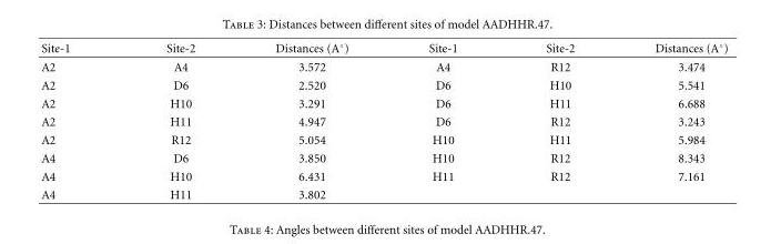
<table><thead><tr><td>Site-1</td><td>Site-2</td><td>Distances (A◦)</td><td>Site-1</td><td>Site-2</td><td>Distances (A◦)</td></tr></thead><tbody><tr><td>A2</td><td>A4</td><td>3.572</td><td>A4</td><td>R12</td><td>3.474</td></tr><tr><td>A2</td><td>D6</td><td>2.520</td><td>D6</td><td>H10</td><td>5.541</td></tr><tr><td>A2</td><td>H10</td><td>3.291</td><td>D6</td><td>H11</td><td>6.688</td></tr><tr><td>A2</td><td>H11</td><td>4.947</td><td>D6</td><td>R12</td><td>3.243</td></tr><tr><td>A2</td><td>R12</td><td>5.054</td><td>H10</td><td>H11</td><td>5.984</td></tr><tr><td>A4</td><td>D6</td><td>3.850</td><td>H10</td><td>R12</td><td>8.343</td></tr><tr><td>A4</td><td>H10</td><td>6.431</td><td>H11</td><td>R12</td><td>7.161</td></tr><tr><td>A4</td><td>H11</td><td>3.802</td><td></td><td></td><td></td></tr></tbody></table>